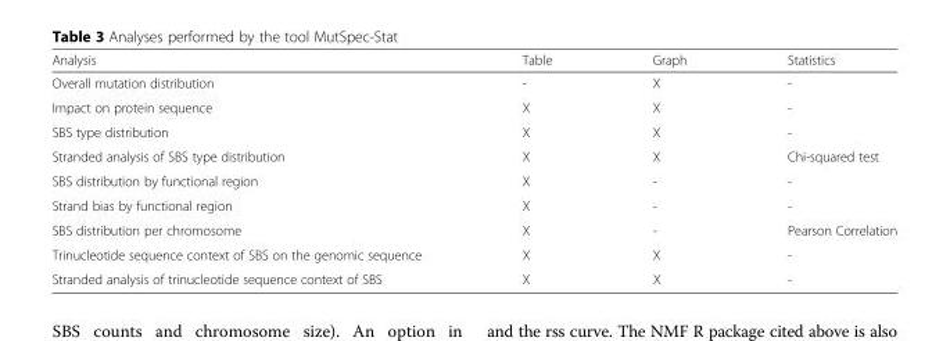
<table><thead><tr><td>Analysis</td><td>Table</td><td>Graph</td><td>Statistics</td></tr></thead><tbody><tr><td>Overall mutation distribution</td><td>-</td><td>X</td><td>-</td></tr><tr><td>Impact on protein sequence</td><td>X</td><td>X</td><td>-</td></tr><tr><td>SBS type distribution</td><td>X</td><td>X</td><td>-</td></tr><tr><td>Stranded analysis of SBS type distribution</td><td>X</td><td>X</td><td>Chi-squared test</td></tr><tr><td>SBS distribution by functional region</td><td>X</td><td>-</td><td>-</td></tr><tr><td>Strand bias by functional region</td><td>X</td><td>-</td><td>-</td></tr><tr><td>SBS distribution per chromosome</td><td>X</td><td>-</td><td>Pearson Correlation</td></tr><tr><td>Trinucleotide sequence context of SBS on the genomic sequence</td><td>X</td><td>X</td><td>-</td></tr><tr><td>Stranded analysis of trinucleotide sequence context of SBS</td><td>X</td><td>X</td><td>-</td></tr></tbody></table>